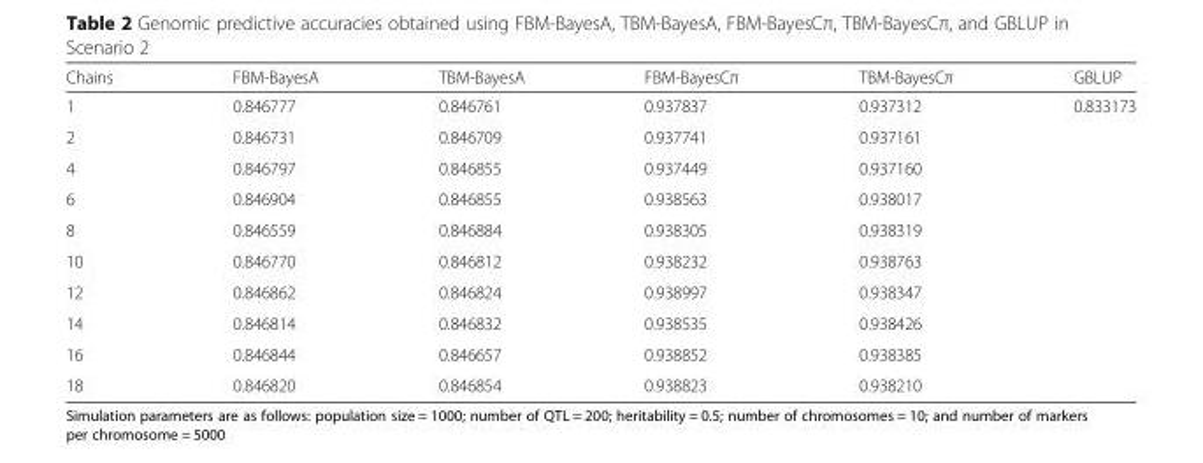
<table><thead><tr><td>Chains</td><td>FBM-BayesA</td><td>TBM-BayesA</td><td>FBM-BayesCπ</td><td>TBM-BayesCπ</td><td>GBLUP</td></tr></thead><tbody><tr><td>1</td><td>0.846777</td><td>0.846761</td><td>0.937837</td><td>0.937312</td><td rowspan="10">0.833173</td></tr><tr><td>2</td><td>0.846731</td><td>0.846709</td><td>0.937741</td><td>0.937161</td></tr><tr><td>4</td><td>0.846797</td><td>0.846855</td><td>0.937449</td><td>0.937160</td></tr><tr><td>6</td><td>0.846904</td><td>0.846855</td><td>0.938563</td><td>0.938017</td></tr><tr><td>8</td><td>0.846559</td><td>0.846884</td><td>0.938305</td><td>0.938319</td></tr><tr><td>10</td><td>0.846770</td><td>0.846812</td><td>0.938232</td><td>0.938763</td></tr><tr><td>12</td><td>0.846862</td><td>0.846824</td><td>0.938997</td><td>0.938347</td></tr><tr><td>14</td><td>0.846814</td><td>0.846832</td><td>0.938535</td><td>0.938426</td></tr><tr><td>16</td><td>0.846844</td><td>0.846657</td><td>0.938852</td><td>0.938385</td></tr><tr><td>18</td><td>0.846820</td><td>0.846854</td><td>0.938823</td><td>0.938210</td></tr></tbody></table>